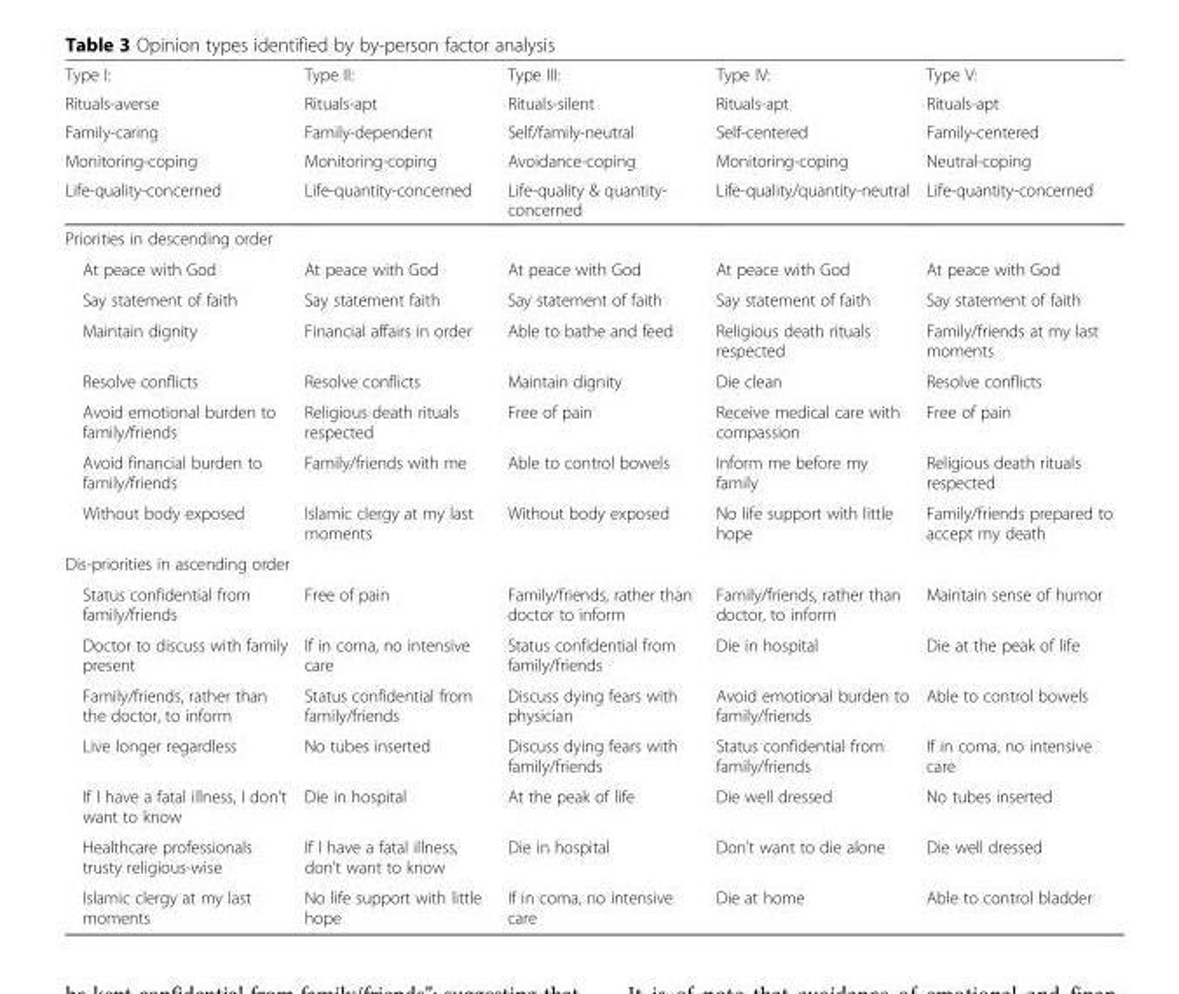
<table><thead><tr><td rowspan="5">Type I: Rituals-averse Family-caring Monitoring-coping Life-quality-concerned</td><td rowspan="5">Type II: Rituals-apt Family-dependent Monitoring-coping Life-quantity-concerned</td><td rowspan="5">Type III: Rituals-silent Self/family-neutral Avoidance-coping Life-quality &amp; quantity- concerned</td><td rowspan="5">Type IV: Rituals-apt Self-centered Monitoring-coping Life-quality/quantity-neutral</td><td rowspan="5">Type V: Rituals-apt Family-centered Neutral-coping Life-quantity-concerned</td></tr><tr></tr><tr></tr><tr></tr><tr></tr></thead><tbody><tr><td colspan="5">Priorities in descending order</td></tr><tr><td>At peace with God</td><td>At peace with God</td><td>At peace with God</td><td>At peace with God</td><td>At peace with God</td></tr><tr><td>Say statement of faith</td><td>Say statement faith</td><td>Say statement of faith</td><td>Say statement of faith</td><td>Say statement of faith</td></tr><tr><td>Maintain dignity</td><td>Financial affairs in order</td><td>Able to bathe and feed</td><td>Religious death rituals respected</td><td>Family/friends at my last moments</td></tr><tr><td>Resolve conflicts</td><td>Resolve conflicts</td><td>Maintain dignity</td><td>Die clean</td><td>Resolve conflicts</td></tr><tr><td>Avoid emotional burden to family/friends</td><td>Religious death rituals respected</td><td>Free of pain</td><td>Receive medical care with compassion</td><td>Free of pain</td></tr><tr><td>Avoid financial burden to family/friends</td><td>Family/friends with me</td><td>Able to control bowels</td><td>Inform me before my family</td><td>Religious death rituals respected</td></tr><tr><td>Without body exposed</td><td>Islamic clergy at my last moments</td><td>Without body exposed</td><td>No life support with little hope</td><td>Family/friends prepared to accept my death</td></tr><tr><td colspan="5">Dis-priorities in ascending order</td></tr><tr><td>Status confidential from family/friends</td><td>Free of pain</td><td>Family/friends, rather than doctor to inform</td><td>Family/friends, rather than doctor, to inform</td><td>Maintain sense of humor</td></tr><tr><td>Doctor to discuss with family present</td><td>If in coma, no intensive care</td><td>Status confidential from family/friends</td><td>Die in hospital</td><td>Die at the peak of life</td></tr><tr><td>Family/friends, rather than the doctor, to inform</td><td>Status confidential from family/friends</td><td>Discuss dying fears with physician</td><td>Avoid emotional burden to family/friends</td><td>Able to control bowels</td></tr><tr><td>Live longer regardless</td><td>No tubes inserted</td><td>Discuss dying fears with family/friends</td><td>Status confidential from family/friends</td><td>If in coma, no intensive care</td></tr><tr><td>If I have a fatal illness, I don’t want to know</td><td>Die in hospital</td><td>At the peak of life</td><td>Die well dressed</td><td>No tubes inserted</td></tr><tr><td>Healthcare professionals trusty religious-wise</td><td>If I have a fatal illness, don’t want to know</td><td>Die in hospital</td><td>Don’t want to die alone</td><td>Die well dressed</td></tr><tr><td>Islamic clergy at my last moments</td><td>No life support with little hope</td><td>If in coma, no intensive care</td><td>Die at home</td><td>Able to control bladder</td></tr></tbody></table>